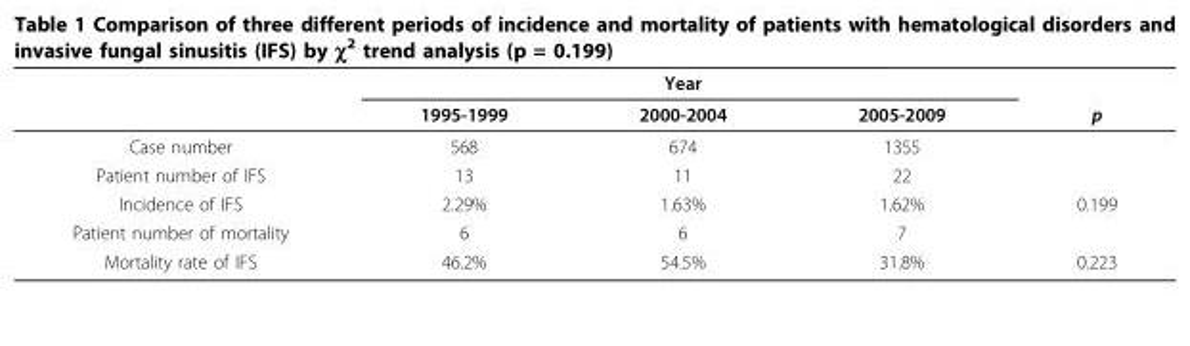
<table><thead><tr><td rowspan="2"></td><td colspan="3">Year</td><td rowspan="2">p</td></tr><tr><td>1995-1999</td><td>2000-2004</td><td>2005-2009</td></tr></thead><tbody><tr><td>Case number</td><td>568</td><td>674</td><td>1355</td><td></td></tr><tr><td>Patient number of IFS</td><td>13</td><td>11</td><td>22</td><td></td></tr><tr><td>Incidence of IFS</td><td>2.29%</td><td>1.63%</td><td>1.62%</td><td>0.199</td></tr><tr><td>Patient number of mortality</td><td>6</td><td>6</td><td>7</td><td></td></tr><tr><td>Mortality rate of IFS</td><td>46.2%</td><td>54.5%</td><td>31.8%</td><td>0.223</td></tr></tbody></table>